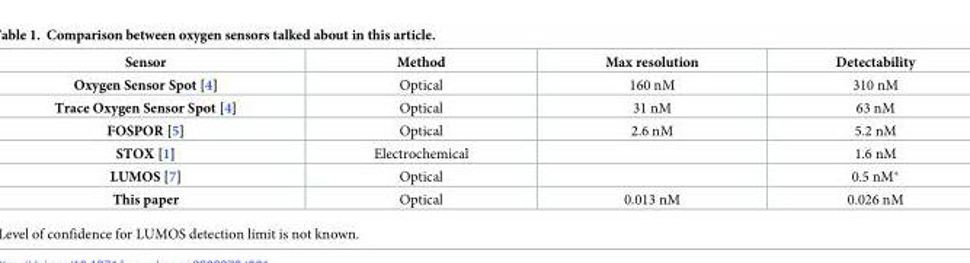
<table><thead><tr><td>Sensor</td><td>Method</td><td>Max resolution</td><td>Detectability</td></tr></thead><tbody><tr><td>Oxygen Sensor Spot [4]</td><td>Optical</td><td>160 nM</td><td>310 nM</td></tr><tr><td>Trace Oxygen Sensor Spot [4]</td><td>Optical</td><td>31 nM</td><td>63 nM</td></tr><tr><td>FOSPOR [5]</td><td>Optical</td><td>2.6 nM</td><td>5.2 nM</td></tr><tr><td>STOX [1]</td><td>Electrochemical</td><td></td><td>1.6 nM</td></tr><tr><td>LUMOS [7]</td><td>Optical</td><td></td><td>0.5 nM*</td></tr><tr><td>This paper</td><td>Optical</td><td>0.013 nM</td><td>0.026 nM</td></tr></tbody></table>